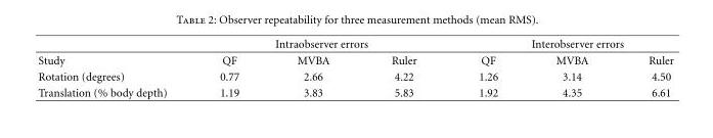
<table><thead><tr><td rowspan="2">Study</td><td colspan="3">Intraobserver errors</td><td colspan="3">Interobserver errors</td></tr><tr><td>QF</td><td>MVBA</td><td>Ruler</td><td>QF</td><td>MVBA</td><td>Ruler</td></tr></thead><tbody><tr><td>Rotation (degrees)</td><td>0.77</td><td>2.66</td><td>4.22</td><td>1.26</td><td>3.14</td><td>4.50</td></tr><tr><td>Translation (% body depth)</td><td>1.19</td><td>3.83</td><td>5.83</td><td>1.92</td><td>4.35</td><td>6.61</td></tr></tbody></table>